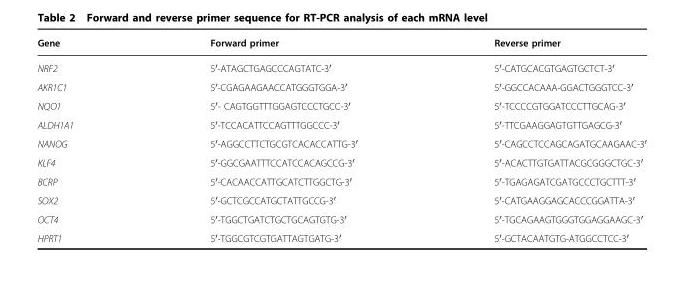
<table><thead><tr><td>Gene</td><td>Forward primer</td><td>Reverse primer</td></tr></thead><tbody><tr><td>NRF2</td><td>5′-ATAGCTGAGCCCAGTATC-3′</td><td>5′-CATGCACGTGAGTGCTCT-3′</td></tr><tr><td>AKR1C1</td><td>5′-CGAGAAGAACCATGGGTGGA-3′</td><td>5′-GGCCACAAA-GGACTGGGTCC-3′</td></tr><tr><td>NQO1</td><td>5′- CAGTGGTTTGGAGTCCCTGCC-3′</td><td>5′-TCCCCGTGGATCCCTTGCAG-3′</td></tr><tr><td>ALDH1A1</td><td>5′-TCCACATTCCAGTTTGGCCC-3′</td><td>5′-TTCGAAGGAGTGTTGAGCG-3′</td></tr><tr><td>NANOG</td><td>5′-AGGCCTTCTGCGTCACACCATTG-3′</td><td>5′-CAGCCTCCAGCAGATGCAAGAAC-3′</td></tr><tr><td>KLF4</td><td>5′-GGCGAATTTCCATCCACAGCCG-3′</td><td>5′-ACACTTGTGATTACGCGGGCTGC-3′</td></tr><tr><td>BCRP</td><td>5′-CACAACCATTGCATCTTGGCTG-3′</td><td>5′-TGAGAGATCGATGCCCTGCTTT-3′</td></tr><tr><td>SOX2</td><td>5′-GCTCGCCATGCTATTGCCG-3′</td><td>5′-CATGAAGGAGCACCCGGATTA-3′</td></tr><tr><td>OCT4</td><td>5′-TGGCTGATCTGCTGCAGTGTG-3′</td><td>5′-TGCAGAAGTGGGTGGAGGAAGC-3′</td></tr><tr><td>HPRT1</td><td>5′-TGGCGTCGTGATTAGTGATG-3′</td><td>5′-GCTACAATGTG-ATGGCCTCC-3′</td></tr></tbody></table>